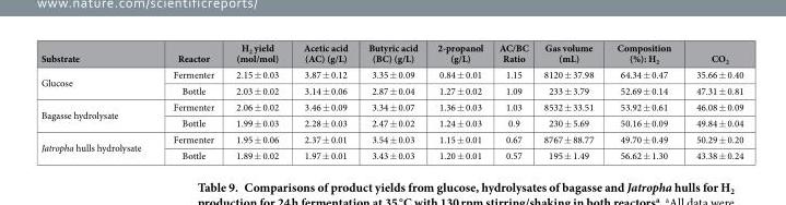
<table><thead><tr><td>Substrate</td><td>Reactor</td><td>H<sub>2</sub> yield (mol/mol)</td><td>Acetic acid (AC) (g/L)</td><td>Butyric acid (BC) (g/L)</td><td>2-propanol (g/L)</td><td>AC/BC Ratio</td><td>Gas volume (mL)</td><td>Composition (%): H<sub>2</sub></td><td>CO<sub>2</sub></td></tr></thead><tbody><tr><td rowspan="2">Glucose</td><td>Fermenter</td><td>2.15 ± 0.03</td><td>3.87 ± 0.12</td><td>3.35 ± 0.09</td><td>0.84 ± 0.01</td><td>1.15</td><td>8120 ± 37.98</td><td>64.34 ± 0.47</td><td>35.66 ± 0.40</td></tr><tr><td>Bottle</td><td>2.03 ± 0.02</td><td>3.14 ± 0.06</td><td>2.87 ± 0.04</td><td>1.27 ± 0.02</td><td>1.09</td><td>233 ± 3.79</td><td>52.69 ± 0.14</td><td>47.31 ± 0.81</td></tr><tr><td rowspan="2">Bagasse hydrolysate</td><td>Fermenter</td><td>2.06 ± 0.02</td><td>3.46 ± 0.09</td><td>3.34 ± 0.07</td><td>1.36 ± 0.03</td><td>1.03</td><td>8532 ± 33.51</td><td>53.92 ± 0.61</td><td>46.08 ± 0.09</td></tr><tr><td>Bottle</td><td>1.99 ± 0.03</td><td>2.28 ± 0.03</td><td>2.47 ± 0.02</td><td>1.24 ± 0.03</td><td>0.9</td><td>230 ± 5.69</td><td>50.16 ± 0.09</td><td>49.84 ± 0.04</td></tr><tr><td rowspan="2">Jatropha hulls hydrolysate</td><td>Fermenter</td><td>1.95 ± 0.06</td><td>2.37 ± 0.01</td><td>3.54 ± 0.03</td><td>1.15 ± 0.01</td><td>0.67</td><td>8767 ± 88.77</td><td>49.70 ± 0.49</td><td>50.29 ± 0.20</td></tr><tr><td>Bottle</td><td>1.89 ± 0.02</td><td>1.97 ± 0.01</td><td>3.43 ± 0.03</td><td>1.20 ± 0.01</td><td>0.57</td><td>195 ± 1.49</td><td>56.62 ± 1.30</td><td>43.38 ± 0.24</td></tr></tbody></table>